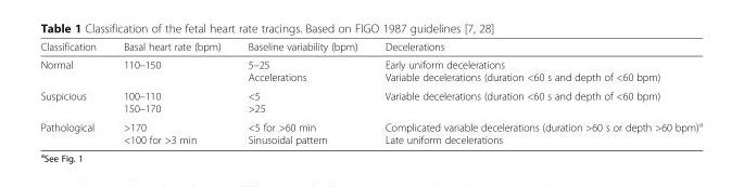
<table><thead><tr><td>Classification</td><td>Basal heart rate (bpm)</td><td>Baseline variability (bpm)</td><td>Decelerations</td></tr></thead><tbody><tr><td>Normal</td><td>110–150</td><td>5–25 Accelerations</td><td>Early uniform decelerations Variable decelerations (duration &lt;60 s and depth of &lt;60 bpm)</td></tr><tr><td>Suspicious</td><td>100–110 150–170</td><td>&lt;5 &gt;25</td><td>Variable decelerations (duration &lt;60 s and depth of &lt;60 bpm)</td></tr><tr><td>Pathological</td><td>&gt;170 &lt;100 for &gt;3 min</td><td>&lt;5 for &gt;60 min Sinusoidal pattern</td><td>Complicated variable decelerations (duration &gt;60 s or depth &gt;60 bpm)<sup>a</sup> Late uniform decelerations</td></tr></tbody></table>